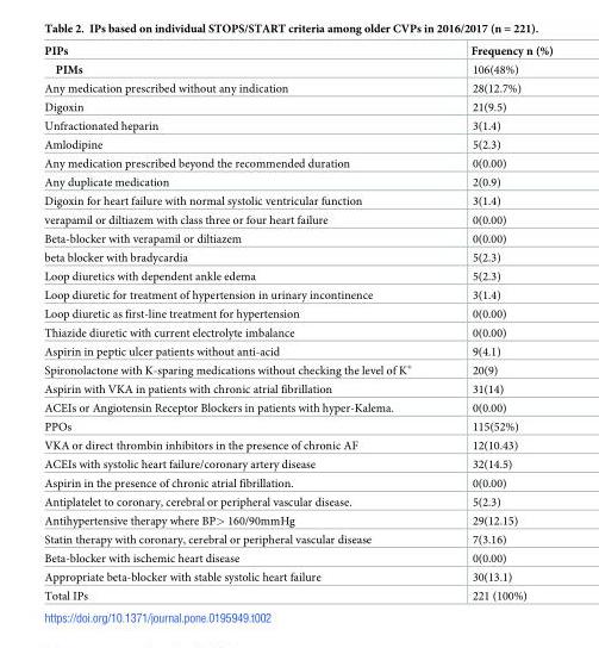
<table><thead><tr><td>PIPs</td><td>Frequency n (%)</td></tr></thead><tbody><tr><td>PIMs</td><td>106(48%)</td></tr><tr><td>Any medication prescribed without any indication</td><td>28(12.7%)</td></tr><tr><td>Digoxin</td><td>21(9.5)</td></tr><tr><td>Unfractionated heparin</td><td>3(1.4)</td></tr><tr><td>Amlodipine</td><td>5(2.3)</td></tr><tr><td>Any medication prescribed beyond the recommended duration</td><td>0(0.00)</td></tr><tr><td>Any duplicate medication</td><td>2(0.9)</td></tr><tr><td>Digoxin for heart failure with normal systolic ventricular function</td><td>3(1.4)</td></tr><tr><td>verapamil or diltiazem with class three or four heart failure</td><td>0(0.00)</td></tr><tr><td>Beta-blocker with verapamil or diltiazem</td><td>0(0.00)</td></tr><tr><td>beta blocker with bradycardia</td><td>5(2.3)</td></tr><tr><td>Loop diuretics with dependent ankle edema</td><td>5(2.3)</td></tr><tr><td>Loop diuretic for treatment of hypertension in urinary incontinence</td><td>3(1.4)</td></tr><tr><td>Loop diuretic as first-line treatment for hypertension</td><td>0(0.00)</td></tr><tr><td>Thiazide diuretic with current electrolyte imbalance</td><td>0(0.00)</td></tr><tr><td>Aspirin in peptic ulcer patients without anti-acid</td><td>9(4.1)</td></tr><tr><td>Spironolactone with K-sparing medications without checking the level of K<sup>+</sup></td><td>20(9)</td></tr><tr><td>Aspirin with VKA in patients with chronic atrial fibrillation</td><td>31(14)</td></tr><tr><td>ACEIs or Angiotensin Receptor Blockers in patients with hyper-Kalema.</td><td>0(0.00)</td></tr><tr><td>PPOs</td><td>115(52%)</td></tr><tr><td>VKA or direct thrombin inhibitors in the presence of chronic AF</td><td>12(10.43)</td></tr><tr><td>ACEIs with systolic heart failure/coronary artery disease</td><td>32(14.5)</td></tr><tr><td>Aspirin in the presence of chronic atrial fibrillation.</td><td>0(0.00)</td></tr><tr><td>Antiplatelet to coronary, cerebral or peripheral vascular disease.</td><td>5(2.3)</td></tr><tr><td>Antihypertensive therapy where BP&gt; 160/90mmHg</td><td>29(12.15)</td></tr><tr><td>Statin therapy with coronary, cerebral or peripheral vascular disease</td><td>7(3.16)</td></tr><tr><td>Beta-blocker with ischemic heart disease</td><td>0(0.00)</td></tr><tr><td>Appropriate beta-blocker with stable systolic heart failure</td><td>30(13.1)</td></tr><tr><td>Total IPs</td><td>221 (100%)</td></tr></tbody></table>